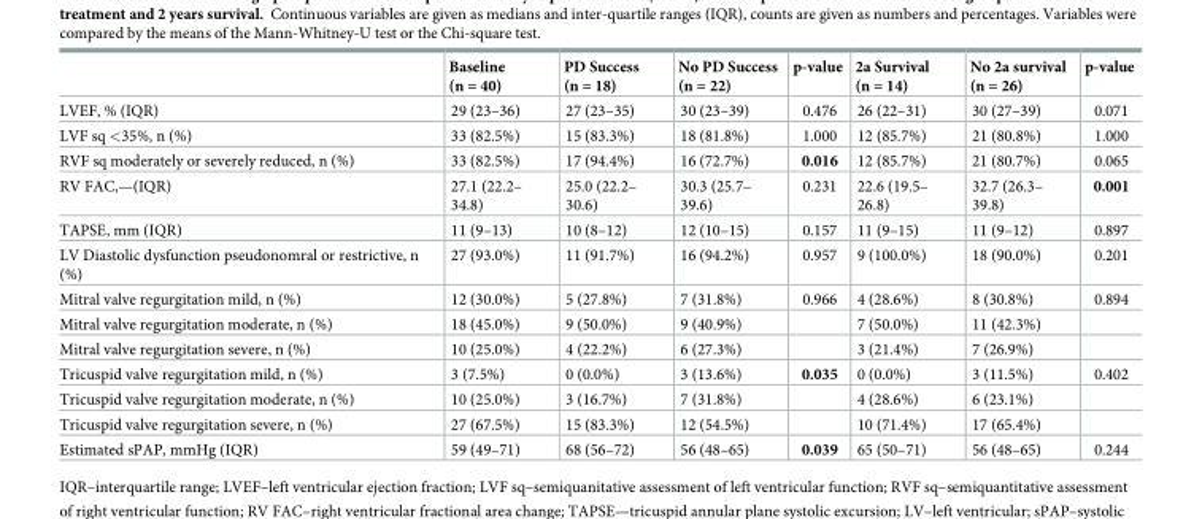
<table><thead><tr><td></td><td>Baseline (n = 40)</td><td>PD Success (n = 18)</td><td>No PD Success (n = 22)</td><td>p-value</td><td>2a Survival (n = 14)</td><td>No 2a survival (n = 26)</td><td>p-value</td></tr></thead><tbody><tr><td>LVEF, % (IQR)</td><td>29 (23–36)</td><td>27 (23–35)</td><td>30 (23–39)</td><td>0.476</td><td>26 (22–31)</td><td>30 (27–39)</td><td>0.071</td></tr><tr><td>LVF sq &lt;35%, n (%)</td><td>33 (82.5%)</td><td>15 (83.3%)</td><td>18 (81.8%)</td><td>1.000</td><td>12 (85.7%)</td><td>21 (80.8%)</td><td>1.000</td></tr><tr><td>RVF sq moderately or severely reduced, n (%)</td><td>33 (82.5%)</td><td>17 (94.4%)</td><td>16 (72.7%)</td><td>0.016</td><td>12 (85.7%)</td><td>21 (80.7%)</td><td>0.065</td></tr><tr><td>RV FAC,—(IQR)</td><td>27.1 (22.2– 34.8)</td><td>25.0 (22.2– 30.6)</td><td>30.3 (25.7– 39.6)</td><td>0.231</td><td>22.6 (19.5– 26.8)</td><td>32.7 (26.3– 39.8)</td><td>0.001</td></tr><tr><td>TAPSE, mm (IQR)</td><td>11 (9–13)</td><td>10 (8–12)</td><td>12 (10–15)</td><td>0.157</td><td>11 (9–15)</td><td>11 (9–12)</td><td>0.897</td></tr><tr><td>LV Diastolic dysfunction pseudonomral or restrictive, n (%)</td><td>27 (93.0%)</td><td>11 (91.7%)</td><td>16 (94.2%)</td><td>0.957</td><td>9 (100.0%)</td><td>18 (90.0%)</td><td>0.201</td></tr><tr><td>Mitral valve regurgitation mild, n (%)</td><td>12 (30.0%)</td><td>5 (27.8%)</td><td>7 (31.8%)</td><td>0.966</td><td>4 (28.6%)</td><td>8 (30.8%)</td><td>0.894</td></tr><tr><td>Mitral valve regurgitation moderate, n (%)</td><td>18 (45.0%)</td><td>9 (50.0%)</td><td>9 (40.9%)</td><td></td><td>7 (50.0%)</td><td>11 (42.3%)</td><td></td></tr><tr><td>Mitral valve regurgitation severe, n (%)</td><td>10 (25.0%)</td><td>4 (22.2%)</td><td>6 (27.3%)</td><td></td><td>3 (21.4%)</td><td>7 (26.9%)</td><td></td></tr><tr><td>Tricuspid valve regurgitation mild, n (%)</td><td>3 (7.5%)</td><td>0 (0.0%)</td><td>3 (13.6%)</td><td>0.035</td><td>0 (0.0%)</td><td>3 (11.5%)</td><td>0.402</td></tr><tr><td>Tricuspid valve regurgitation moderate, n (%)</td><td>10 (25.0%)</td><td>3 (16.7%)</td><td>7 (31.8%)</td><td></td><td>4 (28.6%)</td><td>6 (23.1%)</td><td></td></tr><tr><td>Tricuspid valve regurgitation severe, n (%)</td><td>27 (67.5%)</td><td>15 (83.3%)</td><td>12 (54.5%)</td><td></td><td>10 (71.4%)</td><td>17 (65.4%)</td><td></td></tr><tr><td>Estimated sPAP, mmHg (IQR)</td><td>59 (49–71)</td><td>68 (56–72)</td><td>56 (48–65)</td><td>0.039</td><td>65 (50–71)</td><td>56 (48–65)</td><td>0.244</td></tr></tbody></table>